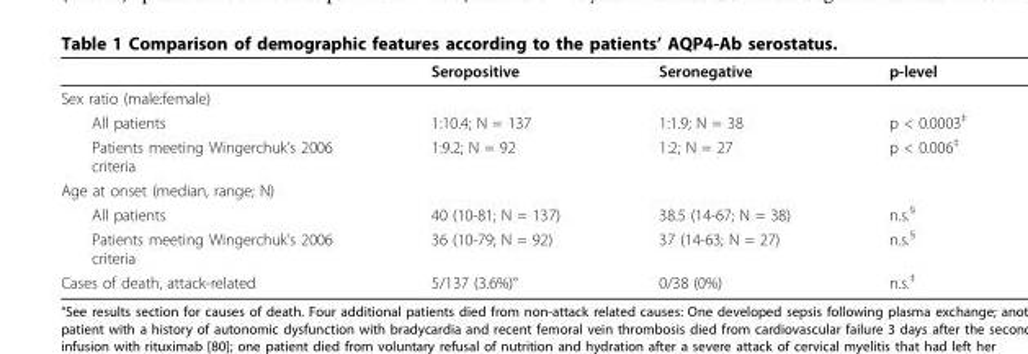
<table><thead><tr><td></td><td>Seropositive</td><td>Seronegative</td><td>p-level</td></tr></thead><tbody><tr><td colspan="4">Sex ratio (male:female)</td></tr><tr><td>All patients</td><td>1:10.4; N = 137</td><td>1:1.9; N = 38</td><td>p &lt; 0.0003<sup>‡</sup></td></tr><tr><td>Patients meeting Wingerchuk’s 2006 criteria</td><td>1:9.2; N = 92</td><td>1:2; N = 27</td><td>p &lt; 0.006<sup>‡</sup></td></tr><tr><td colspan="4">Age at onset (median, range; N)</td></tr><tr><td>All patients</td><td>40 (10-81; N = 137)</td><td>38.5 (14-67; N = 38)</td><td>n.s.<sup>§</sup></td></tr><tr><td>Patients meeting Wingerchuk’s 2006 criteria</td><td>36 (10-79; N = 92)</td><td>37 (14-63; N = 27)</td><td>n.s.<sup>§</sup></td></tr><tr><td>Cases of death, attack-related</td><td>5/137 (3.6%)°</td><td>0/38 (0%)</td><td>n.s.<sup>‡</sup></td></tr></tbody></table>